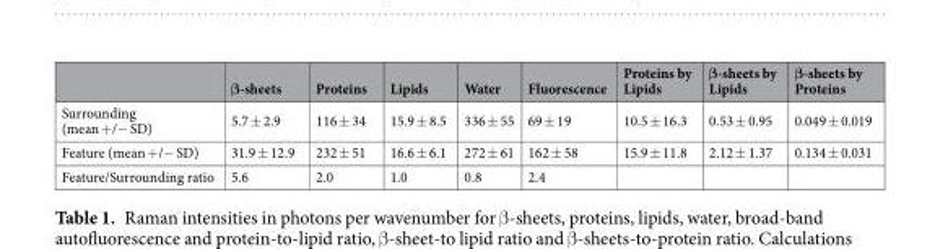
<table><thead><tr><td></td><td>β-sheets</td><td>Proteins</td><td>Lipids</td><td>Water</td><td>Fluorescence</td><td>Proteins by Lipids</td><td>β-sheets by Lipids</td><td>β-sheets by Proteins</td></tr></thead><tbody><tr><td>Surrounding (mean +/− SD)</td><td>5.7 ± 2.9</td><td>116 ± 34</td><td>15.9 ± 8.5</td><td>336 ± 55</td><td>69 ± 19</td><td>10.5 ± 16.3</td><td>0.53 ± 0.95</td><td>0.049 ± 0.019</td></tr><tr><td>Feature (mean +/− SD)</td><td>31.9 ± 12.9</td><td>232 ± 51</td><td>16.6 ± 6.1</td><td>272 ± 61</td><td>162 ± 58</td><td>15.9 ± 11.8</td><td>2.12 ± 1.37</td><td>0.134 ± 0.031</td></tr><tr><td>Feature/Surrounding ratio</td><td>5.6</td><td>2.0</td><td>1.0</td><td>0.8</td><td>2.4</td><td></td><td></td><td></td></tr></tbody></table>